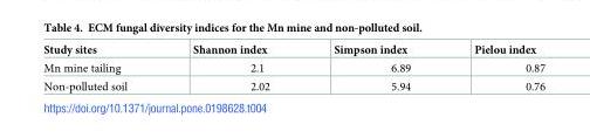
<table><thead><tr><td>Study sites</td><td>Shannon index</td><td>Simpson index</td><td>Pielou index</td></tr></thead><tbody><tr><td>Mn mine tailing</td><td>2.1</td><td>6.89</td><td>0.87</td></tr><tr><td>Non-polluted soil</td><td>2.02</td><td>5.94</td><td>0.76</td></tr></tbody></table>